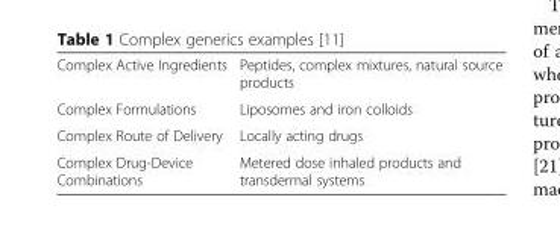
<table><tbody><tr><td>Complex Active Ingredients</td><td>Peptides, complex mixtures, natural source products</td></tr><tr><td>Complex Formulations</td><td>Liposomes and iron colloids</td></tr><tr><td>Complex Route of Delivery</td><td>Locally acting drugs</td></tr><tr><td>Complex Drug-Device Combinations</td><td>Metered dose inhaled products and transdermal systems</td></tr></tbody></table>